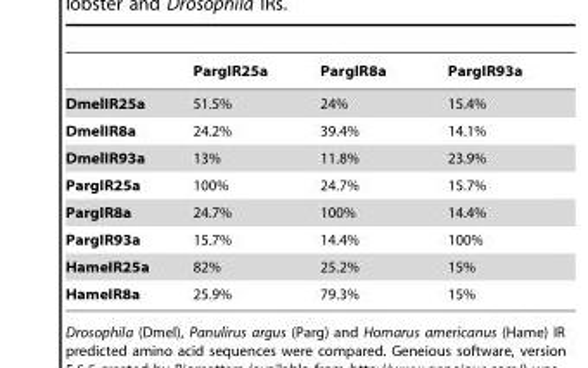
<table><thead><tr><td></td><td>PargIR25a</td><td>PargIR8a</td><td>PargIR93a</td></tr></thead><tbody><tr><td>DmelIR25a</td><td>51.5%</td><td>24%</td><td>15.4%</td></tr><tr><td>DmelIR8a</td><td>24.2%</td><td>39.4%</td><td>14.1%</td></tr><tr><td>DmelIR93a</td><td>13%</td><td>11.8%</td><td>23.9%</td></tr><tr><td>PargIR25a</td><td>100%</td><td>24.7%</td><td>15.7%</td></tr><tr><td>PargIR8a</td><td>24.7%</td><td>100%</td><td>14.4%</td></tr><tr><td>PargIR93a</td><td>15.7%</td><td>14.4%</td><td>100%</td></tr><tr><td>HameIR25a</td><td>82%</td><td>25.2%</td><td>15%</td></tr><tr><td>HameIR8a</td><td>25.9%</td><td>79.3%</td><td>15%</td></tr></tbody></table>